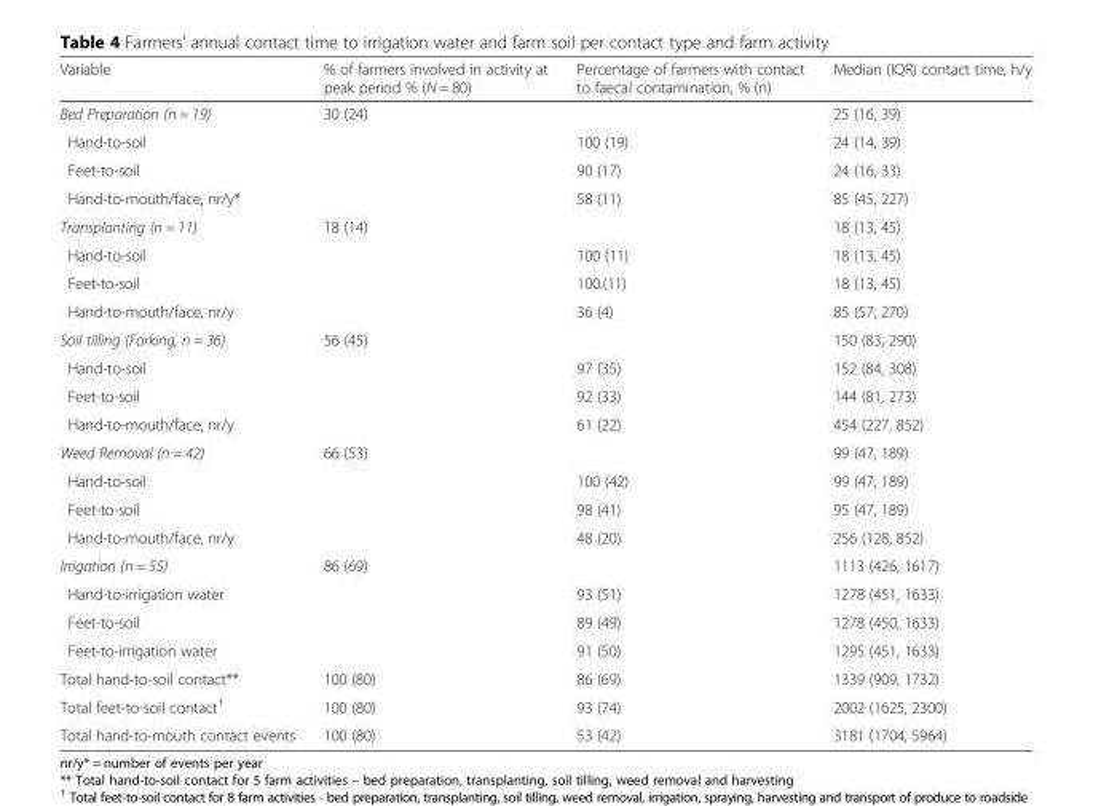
<table><thead><tr><td>Variable</td><td>% of farmers involved in activity at peak period % (N = 80)</td><td>Percentage of farmers with contact to faecal contamination, % (n)</td><td>Median (IQR) contact time, h/y</td></tr></thead><tbody><tr><td>Bed Preparation (n = 19)</td><td>30 (24)</td><td></td><td>25 (16, 39)</td></tr><tr><td>Hand-to-soil</td><td></td><td>100 (19)</td><td>24 (14, 39)</td></tr><tr><td>Feet-to-soil</td><td></td><td>90 (17)</td><td>24 (16, 33)</td></tr><tr><td>Hand-to-mouth/face, nr/y*</td><td></td><td>58 (11)</td><td>85 (45, 227)</td></tr><tr><td>Transplanting (n = 11)</td><td>18 (14)</td><td></td><td>18 (13, 45)</td></tr><tr><td>Hand-to-soil</td><td></td><td>100 (11)</td><td>18 (13, 45)</td></tr><tr><td>Feet-to-soil</td><td></td><td>100.(11)</td><td>18 (13, 45)</td></tr><tr><td>Hand-to-mouth/face, nr/y</td><td></td><td>36 (4)</td><td>85 (57, 270)</td></tr><tr><td>Soil tilling (Forking, n = 36)</td><td>56 (45)</td><td></td><td>150 (83, 290)</td></tr><tr><td>Hand-to-soil</td><td></td><td>97 (35)</td><td>152 (84, 308)</td></tr><tr><td>Feet-to-soil</td><td></td><td>92 (33)</td><td>144 (81, 273)</td></tr><tr><td>Hand-to-mouth/face, nr/y</td><td></td><td>61 (22)</td><td>454 (227, 852)</td></tr><tr><td>Weed Removal (n = 42)</td><td>66 (53)</td><td></td><td>99 (47, 189)</td></tr><tr><td>Hand-to-soil</td><td></td><td>100 (42)</td><td>99 (47, 189)</td></tr><tr><td>Feet-to-soil</td><td></td><td>98 (41)</td><td>95 (47, 189)</td></tr><tr><td>Hand-to-mouth/face, nr/y</td><td></td><td>48 (20)</td><td>256 (128, 852)</td></tr><tr><td>Irrigation (n = 55)</td><td>86 (69)</td><td></td><td>1113 (426, 1617)</td></tr><tr><td>Hand-to-irrigation water</td><td></td><td>93 (51)</td><td>1278 (451, 1633)</td></tr><tr><td>Feet-to-soil</td><td></td><td>89 (49)</td><td>1278 (450, 1633)</td></tr><tr><td>Feet-to-irrigation water</td><td></td><td>91 (50)</td><td>1295 (451, 1633)</td></tr><tr><td>Total hand-to-soil contact**</td><td>100 (80)</td><td>86 (69)</td><td>1339 (909, 1732)</td></tr><tr><td>Total feet-to-soil contact<sup>†</sup></td><td>100 (80)</td><td>93 (74)</td><td>2002 (1625, 2300)</td></tr><tr><td>Total hand-to-mouth contact events</td><td>100 (80)</td><td>53 (42)</td><td>3181 (1704, 5964)</td></tr></tbody></table>